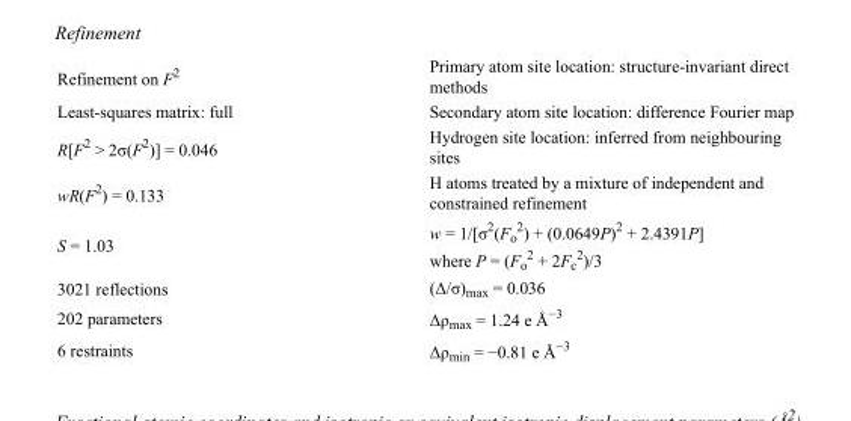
<table><tbody><tr><td>Refinement on F<sup>2</sup></td><td>Primary atom site location: structure-invariant direct methods</td></tr><tr><td>Least-squares matrix: full</td><td>Secondary atom site location: difference Fourier map</td></tr><tr><td>R[F<sup>2</sup> &gt; 2σ(F<sup>2</sup>)] = 0.046</td><td>Hydrogen site location: inferred from neighbouring sites</td></tr><tr><td>wR(F<sup>2</sup>) = 0.133</td><td>H atoms treated by a mixture of independent and constrained refinement</td></tr><tr><td>S = 1.03</td><td>w = 1/[σ<sup>2</sup>(F<sub>o</sub> <sup>2</sup>) + (0.0649P)<sup>2</sup> + 2.4391P] where P = (F<sub>o</sub> <sup>2</sup> + 2F<sub>c</sub> <sup>2</sup>)/3</td></tr><tr><td>3021 reflections</td><td>(Δ/σ)<sub>max</sub> = 0.036</td></tr><tr><td>202 parameters</td><td>Δρ<sub>max</sub> = 1.24 e Å<sup>−3</sup></td></tr><tr><td>6 restraints</td><td>Δρ<sub>min</sub> = −0.81 e Å<sup>−3</sup></td></tr></tbody></table>